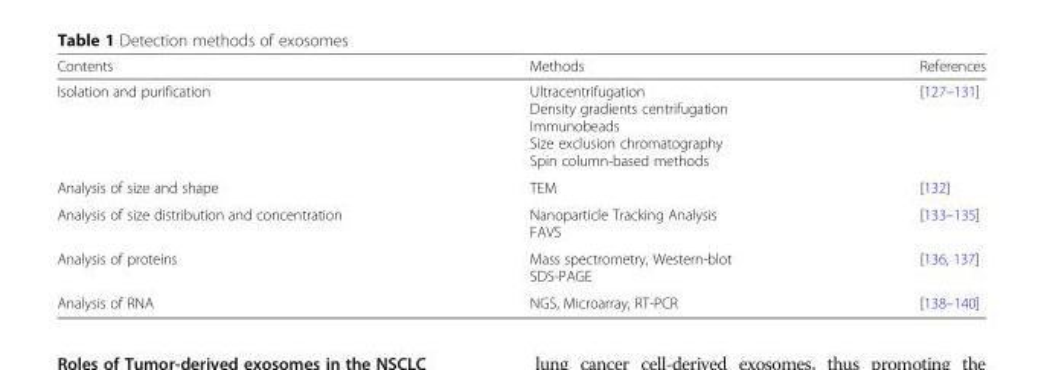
<table><thead><tr><td>Contents</td><td>Methods</td><td>References</td></tr></thead><tbody><tr><td>Isolation and purification</td><td>Ultracentrifugation Density gradients centrifugation Immunobeads Size exclusion chromatography Spin column-based methods</td><td>[127–131]</td></tr><tr><td>Analysis of size and shape</td><td>TEM</td><td>[132]</td></tr><tr><td>Analysis of size distribution and concentration</td><td>Nanoparticle Tracking Analysis FAVS</td><td>[133–135]</td></tr><tr><td>Analysis of proteins</td><td>Mass spectrometry, Western-blot SDS-PAGE</td><td>[136, 137]</td></tr><tr><td>Analysis of RNA</td><td>NGS, Microarray, RT-PCR</td><td>[138–140]</td></tr></tbody></table>